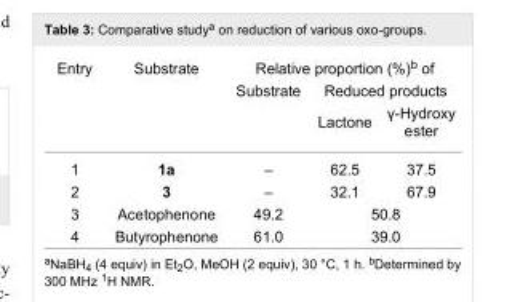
<table><tbody><tr><td rowspan="2">Entry</td><td rowspan="2">Substrate</td><td colspan="3">Relative proportion (%)<sup>b</sup> of</td></tr><tr><td>Substrate</td><td colspan="2">Reduced products</td></tr><tr><td colspan="3"></td><td>Lactone</td><td>γ-Hydroxy ester</td></tr><tr><td>1</td><td>1a</td><td>–</td><td>62.5</td><td>37.5</td></tr><tr><td>2</td><td>3</td><td>–</td><td>32.1</td><td>67.9</td></tr><tr><td>3</td><td>Acetophenone</td><td>49.2</td><td colspan="2">50.8</td></tr><tr><td>4</td><td>Butyrophenone</td><td>61.0</td><td colspan="2">39.0</td></tr></tbody></table>